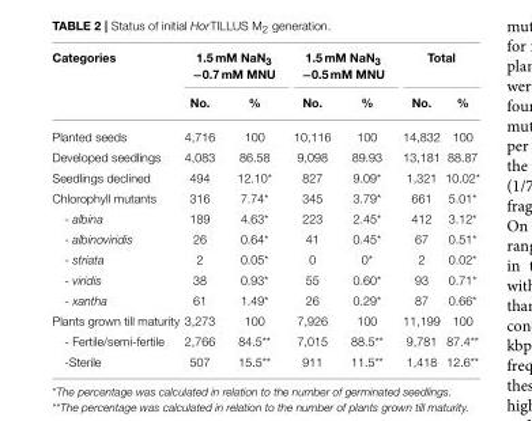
<table><thead><tr><td rowspan="2">Categories</td><td colspan="2">1.5 mM NaN<sub>3</sub> −0.7 mM MNU</td><td colspan="2">1.5 mM NaN<sub>3</sub> −0.5 mM MNU</td><td colspan="2">Total</td></tr><tr><td>No.</td><td>%</td><td>No.</td><td>%</td><td>No.</td><td>%</td></tr></thead><tbody><tr><td>Planted seeds</td><td>4,716</td><td>100</td><td>10,116</td><td>100</td><td>14,832</td><td>100</td></tr><tr><td>Developed seedlings</td><td>4,083</td><td>86.58</td><td>9,098</td><td>89.93</td><td>13,181</td><td>88.87</td></tr><tr><td>Seedlings declined</td><td>494</td><td>12.10*</td><td>827</td><td>9.09*</td><td>1,321</td><td>10.02*</td></tr><tr><td>Chlorophyll mutants</td><td>316</td><td>7.74*</td><td>345</td><td>3.79*</td><td>661</td><td>5.01*</td></tr><tr><td>- albina</td><td>189</td><td>4.63*</td><td>223</td><td>2.45*</td><td>412</td><td>3.12*</td></tr><tr><td>- albinoviridis</td><td>26</td><td>0.64*</td><td>41</td><td>0.45*</td><td>67</td><td>0.51*</td></tr><tr><td>- striata</td><td>2</td><td>0.05*</td><td>0</td><td>0*</td><td>2</td><td>0.02*</td></tr><tr><td>- viridis</td><td>38</td><td>0.93*</td><td>55</td><td>0.60*</td><td>93</td><td>0.71*</td></tr><tr><td>- xantha</td><td>61</td><td>1.49*</td><td>26</td><td>0.29*</td><td>87</td><td>0.66*</td></tr><tr><td>Plants grown till maturity</td><td>3,273</td><td>100</td><td>7,926</td><td>100</td><td>11,199</td><td>100</td></tr><tr><td>- Fertile/semi-fertile</td><td>2,766</td><td>84.5**</td><td>7,015</td><td>88.5**</td><td>9,781</td><td>87.4**</td></tr><tr><td>-Sterile</td><td>507</td><td>15.5**</td><td>911</td><td>11.5**</td><td>1,418</td><td>12.6**</td></tr></tbody></table>